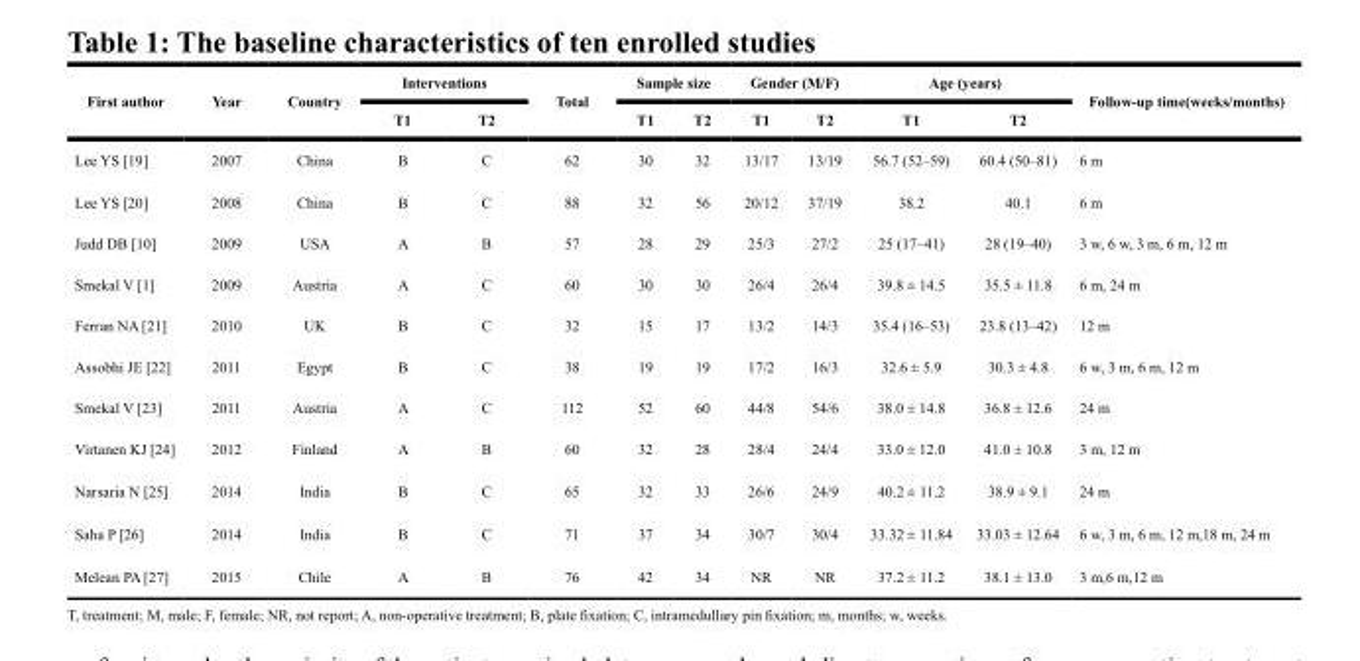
<table><thead><tr><td rowspan="2">First author</td><td rowspan="2">Year</td><td rowspan="2">Country</td><td colspan="2">Interventions</td><td rowspan="2">Total</td><td colspan="2">Sample size</td><td colspan="2">Gender (M/F)</td><td colspan="2">Age (years)</td><td rowspan="2">Follow-up time(weeks/months)</td></tr><tr><td>T1</td><td>T2</td><td>T1</td><td>T2</td><td>T1</td><td>T2</td><td>T1</td><td>T2</td></tr></thead><tbody><tr><td>Lee YS [19]</td><td>2007</td><td>China</td><td>B</td><td>C</td><td>62</td><td>30</td><td>32</td><td>13/17</td><td>13/19</td><td>56.7 (52–59)</td><td>60.4 (50–81)</td><td>6 m</td></tr><tr><td>Lee YS [20]</td><td>2008</td><td>China</td><td>B</td><td>C</td><td>88</td><td>32</td><td>56</td><td>20/12</td><td>37/19</td><td>38.2</td><td>40.1</td><td>6 m</td></tr><tr><td>Judd DB [10]</td><td>2009</td><td>USA</td><td>A</td><td>B</td><td>57</td><td>28</td><td>29</td><td>25/3</td><td>27/2</td><td>25 (17–41)</td><td>28 (19–40)</td><td>3 w, 6 w, 3 m, 6 m, 12 m</td></tr><tr><td>Smekal V [1]</td><td>2009</td><td>Austria</td><td>A</td><td>C</td><td>60</td><td>30</td><td>30</td><td>26/4</td><td>26/4</td><td>39.8 ± 14.5</td><td>35.5 ± 11.8</td><td>6 m, 24 m</td></tr><tr><td>Ferran NA [21]</td><td>2010</td><td>UK</td><td>B</td><td>C</td><td>32</td><td>15</td><td>17</td><td>13/2</td><td>14/3</td><td>35.4 (16–53)</td><td>23.8 (13–42)</td><td>12 m</td></tr><tr><td>Assobhi JE [22]</td><td>2011</td><td>Egypt</td><td>B</td><td>C</td><td>38</td><td>19</td><td>19</td><td>17/2</td><td>16/3</td><td>32.6 ± 5.9</td><td>30.3 ± 4.8</td><td>6 w, 3 m, 6 m, 12 m</td></tr><tr><td>Smekal V [23]</td><td>2011</td><td>Austria</td><td>A</td><td>C</td><td>112</td><td>52</td><td>60</td><td>44/8</td><td>54/6</td><td>38.0 ± 14.8</td><td>36.8 ± 12.6</td><td>24 m</td></tr><tr><td>Virtanen KJ [24]</td><td>2012</td><td>Finland</td><td>A</td><td>B</td><td>60</td><td>32</td><td>28</td><td>28/4</td><td>24/4</td><td>33.0 ± 12.0</td><td>41.0 ± 10.8</td><td>3 m, 12 m</td></tr><tr><td>Narsaria N [25]</td><td>2014</td><td>India</td><td>B</td><td>C</td><td>65</td><td>32</td><td>33</td><td>26/6</td><td>24/9</td><td>40.2 ± 11.2</td><td>38.9 ± 9.1</td><td>24 m</td></tr><tr><td>Saha P [26]</td><td>2014</td><td>India</td><td>B</td><td>C</td><td>71</td><td>37</td><td>34</td><td>30/7</td><td>30/4</td><td>33.32 ± 11.84</td><td>33.03 ± 12.64</td><td>6 w, 3 m, 6 m, 12 m,18 m, 24 m</td></tr><tr><td>Melean PA [27]</td><td>2015</td><td>Chile</td><td>A</td><td>B</td><td>76</td><td>42</td><td>34</td><td>NR</td><td>NR</td><td>37.2 ± 11.2</td><td>38.1 ± 13.0</td><td>3 m,6 m,12 m</td></tr></tbody></table>